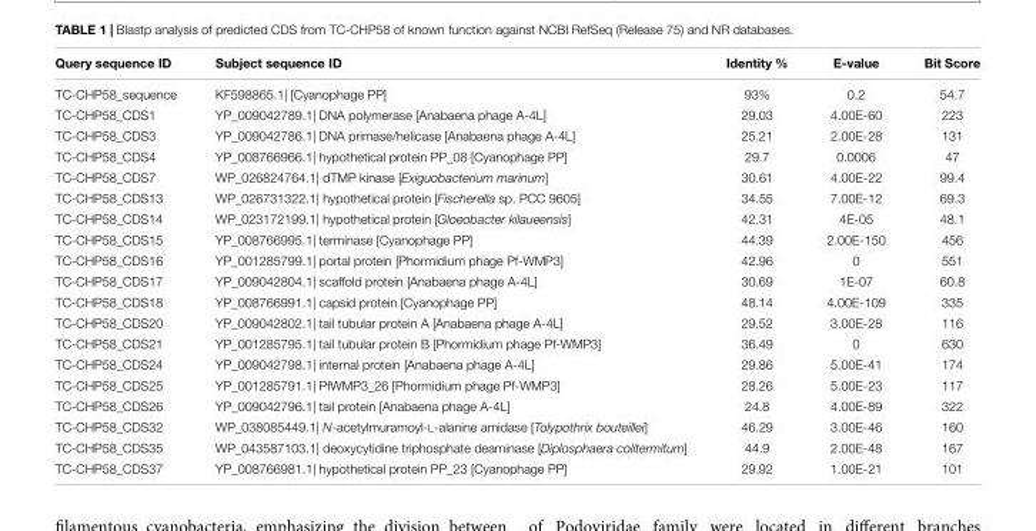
<table><thead><tr><td>Query sequence ID</td><td>Subject sequence ID</td><td>Identity %</td><td>E-value</td><td>Bit Score</td></tr></thead><tbody><tr><td>TC-CHP58_sequence</td><td>KF598865.1| [Cyanophage PP]</td><td>93%</td><td>0.2</td><td>54.7</td></tr><tr><td>TC-CHP58_CDS1</td><td>YP_009042789.1| DNA polymerase [Anabaena phage A-4L]</td><td>29.03</td><td>4.00E-60</td><td>223</td></tr><tr><td>TC-CHP58_CDS3</td><td>YP_009042786.1| DNA primase/helicase [Anabaena phage A-4L]</td><td>25.21</td><td>2.00E-28</td><td>131</td></tr><tr><td>TC-CHP58_CDS4</td><td>YP_008766966.1| hypothetical protein PP_08 [Cyanophage PP]</td><td>29.7</td><td>0.0006</td><td>47</td></tr><tr><td>TC-CHP58_CDS7</td><td>WP_026824764.1| dTMP kinase [Exiguobacterium marinum]</td><td>30.61</td><td>4.00E-22</td><td>99.4</td></tr><tr><td>TC-CHP58_CDS13</td><td>WP_026731322.1| hypothetical protein [Fischerella sp. PCC 9605]</td><td>34.55</td><td>7.00E-12</td><td>69.3</td></tr><tr><td>TC-CHP58_CDS14</td><td>WP_023172199.1| hypothetical protein [Gloeobacter kilaueensis]</td><td>42.31</td><td>4E-05</td><td>48.1</td></tr><tr><td>TC-CHP58_CDS15</td><td>YP_008766995.1| terminase [Cyanophage PP]</td><td>44.39</td><td>2.00E-150</td><td>456</td></tr><tr><td>TC-CHP58_CDS16</td><td>YP_001285799.1| portal protein [Phormidium phage Pf-WMP3]</td><td>42.96</td><td>0</td><td>551</td></tr><tr><td>TC-CHP58_CDS17</td><td>YP_009042804.1| scaffold protein [Anabaena phage A-4L]</td><td>30.69</td><td>1E-07</td><td>60.8</td></tr><tr><td>TC-CHP58_CDS18</td><td>YP_008766991.1| capsid protein [Cyanophage PP]</td><td>48.14</td><td>4.00E-109</td><td>335</td></tr><tr><td>TC-CHP58_CDS20</td><td>YP_009042802.1| tail tubular protein A [Anabaena phage A-4L]</td><td>29.52</td><td>3.00E-28</td><td>116</td></tr><tr><td>TC-CHP58_CDS21</td><td>YP_001285795.1| tail tubular protein B [Phormidium phage Pf-WMP3]</td><td>36.49</td><td>0</td><td>630</td></tr><tr><td>TC-CHP58_CDS24</td><td>YP_009042798.1| internal protein [Anabaena phage A-4L]</td><td>29.86</td><td>5.00E-41</td><td>174</td></tr><tr><td>TC-CHP58_CDS25</td><td>YP_001285791.1| PfWMP3_26 [Phormidium phage Pf-WMP3]</td><td>28.26</td><td>5.00E-23</td><td>117</td></tr><tr><td>TC-CHP58_CDS26</td><td>YP_009042796.1| tail protein [Anabaena phage A-4L]</td><td>24.8</td><td>4.00E-89</td><td>322</td></tr><tr><td>TC-CHP58_CDS32</td><td>WP_038085449.1| N-acetylmuramoyl-L-alanine amidase [Tolypothrix bouteillei]</td><td>46.29</td><td>3.00E-46</td><td>160</td></tr><tr><td>TC-CHP58_CDS35</td><td>WP_043587103.1| deoxycytidine triphosphate deaminase [Diplosphaera colitermitum]</td><td>44.9</td><td>2.00E-48</td><td>167</td></tr><tr><td>TC-CHP58_CDS37</td><td>YP_008766981.1| hypothetical protein PP_23 [Cyanophage PP]</td><td>29.92</td><td>1.00E-21</td><td>101</td></tr></tbody></table>